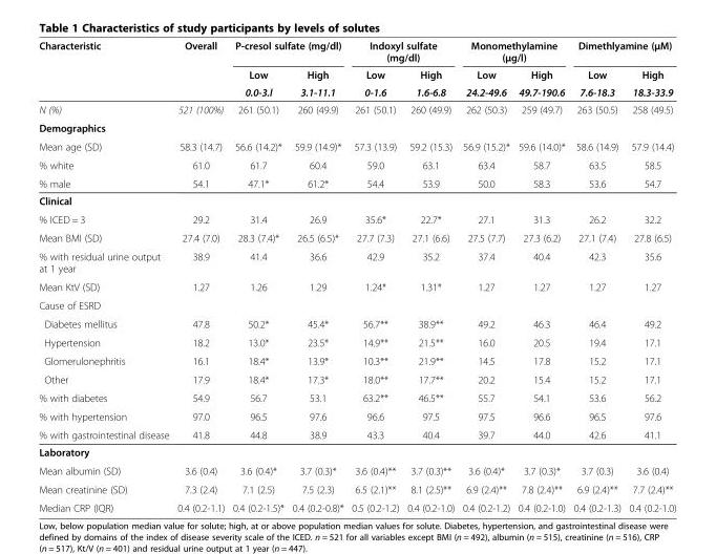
<table><thead><tr><td rowspan="3">Characteristic</td><td rowspan="3">Overall</td><td colspan="2">P-cresol sulfate (mg/dl)</td><td colspan="2">Indoxyl sulfate (mg/dl)</td><td colspan="2">Monomethylamine (μg/l)</td><td colspan="2">Dimethlyamine (μM)</td></tr><tr><td rowspan="2">Low 0.0-3.l</td><td rowspan="2">High 3.1-11.1</td><td rowspan="2">Low 0-1.6</td><td rowspan="2">High 1.6-6.8</td><td rowspan="2">Low 24.2-49.6</td><td rowspan="2">High 49.7-190.6</td><td rowspan="2">Low 7.6-18.3</td><td rowspan="2">High 18.3-33.9</td></tr><tr></tr></thead><tbody><tr><td>N (%)</td><td>521 (100%)</td><td>261 (50.1)</td><td>260 (49.9)</td><td>261 (50.1)</td><td>260 (49.9)</td><td>262 (50.3)</td><td>259 (49.7)</td><td>263 (50.5)</td><td>258 (49.5)</td></tr><tr><td colspan="10">Demographics</td></tr><tr><td>Mean age (SD)</td><td>58.3 (14.7)</td><td>56.6 (14.2)*</td><td>59.9 (14.9)*</td><td>57.3 (13.9)</td><td>59.2 (15.3)</td><td>56.9 (15.2)*</td><td>59.6 (14.0)*</td><td>58.6 (14.9)</td><td>57.9 (14.4)</td></tr><tr><td>% white</td><td>61.0</td><td>61.7</td><td>60.4</td><td>59.0</td><td>63.1</td><td>63.4</td><td>58.7</td><td>63.5</td><td>58.5</td></tr><tr><td>% male</td><td>54.1</td><td>47.1*</td><td>61.2*</td><td>54.4</td><td>53.9</td><td>50.0</td><td>58.3</td><td>53.6</td><td>54.7</td></tr><tr><td colspan="10">Clinical</td></tr><tr><td>% ICED = 3</td><td>29.2</td><td>31.4</td><td>26.9</td><td>35.6*</td><td>22.7*</td><td>27.1</td><td>31.3</td><td>26.2</td><td>32.2</td></tr><tr><td>Mean BMI (SD)</td><td>27.4 (7.0)</td><td>28.3 (7.4)*</td><td>26.5 (6.5)*</td><td>27.7 (7.3)</td><td>27.1 (6.6)</td><td>27.5 (7.7)</td><td>27.3 (6.2)</td><td>27.1 (7.4)</td><td>27.8 (6.5)</td></tr><tr><td>% with residual urine output at 1 year</td><td>38.9</td><td>41.4</td><td>36.6</td><td>42.9</td><td>35.2</td><td>37.4</td><td>40.4</td><td>42.3</td><td>35.6</td></tr><tr><td>Mean KtV (SD)</td><td>1.27</td><td>1.26</td><td>1.29</td><td>1.24*</td><td>1.31*</td><td>1.27</td><td>1.27</td><td>1.27</td><td>1.27</td></tr><tr><td colspan="10">Cause of ESRD</td></tr><tr><td>Diabetes mellitus</td><td>47.8</td><td>50.2*</td><td>45.4*</td><td>56.7**</td><td>38.9**</td><td>49.2</td><td>46.3</td><td>46.4</td><td>49.2</td></tr><tr><td>Hypertension</td><td>18.2</td><td>13.0*</td><td>23.5*</td><td>14.9**</td><td>21.5**</td><td>16.0</td><td>20.5</td><td>19.4</td><td>17.1</td></tr><tr><td>Glomerulonephritis</td><td>16.1</td><td>18.4*</td><td>13.9*</td><td>10.3**</td><td>21.9**</td><td>14.5</td><td>17.8</td><td>15.2</td><td>17.1</td></tr><tr><td>Other</td><td>17.9</td><td>18.4*</td><td>17.3*</td><td>18.0**</td><td>17.7**</td><td>20.2</td><td>15.4</td><td>15.2</td><td>17.1</td></tr><tr><td>% with diabetes</td><td>54.9</td><td>56.7</td><td>53.1</td><td>63.2**</td><td>46.5**</td><td>55.7</td><td>54.1</td><td>53.6</td><td>56.2</td></tr><tr><td>% with hypertension</td><td>97.0</td><td>96.5</td><td>97.6</td><td>96.6</td><td>97.5</td><td>97.5</td><td>96.6</td><td>96.5</td><td>97.6</td></tr><tr><td>% with gastrointestinal disease</td><td>41.8</td><td>44.8</td><td>38.9</td><td>43.3</td><td>40.4</td><td>39.7</td><td>44.0</td><td>42.6</td><td>41.1</td></tr><tr><td colspan="10">Laboratory</td></tr><tr><td>Mean albumin (SD)</td><td>3.6 (0.4)</td><td>3.6 (0.4)*</td><td>3.7 (0.3)*</td><td>3.6 (0.4)**</td><td>3.7 (0.3)**</td><td>3.6 (0.4)*</td><td>3.7 (0.3)*</td><td>3.7 (0.3)</td><td>3.6 (0.4)</td></tr><tr><td>Mean creatinine (SD)</td><td>7.3 (2.4)</td><td>7.1 (2.5)</td><td>7.5 (2.3)</td><td>6.5 (2.1)**</td><td>8.1 (2.5)**</td><td>6.9 (2.4)**</td><td>7.8 (2.4)**</td><td>6.9 (2.4)**</td><td>7.7 (2.4)**</td></tr><tr><td>Median CRP (IQR)</td><td>0.4 (0.2-1.1)</td><td>0.4 (0.2-1.5)*</td><td>0.4 (0.2-0.8)*</td><td>0.5 (0.2-1.2)</td><td>0.4 (0.2-1.0)</td><td>0.4 (0.2-1.2)</td><td>0.4 (0.2-1.0)</td><td>0.4 (0.2-1.3)</td><td>0.4 (0.2-1.0)</td></tr></tbody></table>